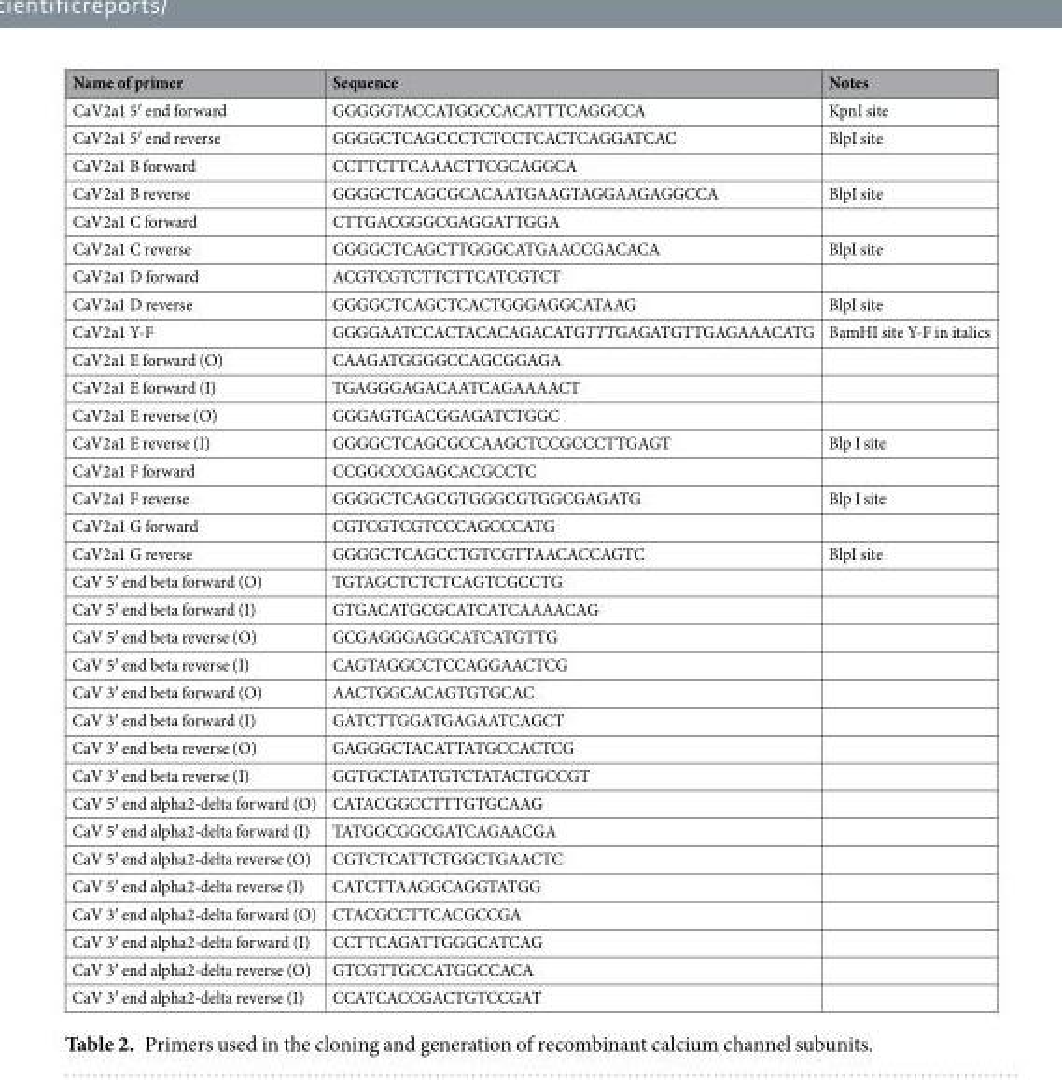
<table><thead><tr><td>Name of primer</td><td>Sequence</td><td>Notes</td></tr></thead><tbody><tr><td>CaV2a1 5′ end forward</td><td>GGGGGTACCATGGCCACATTTCAGGCCA</td><td>KpnI site</td></tr><tr><td>CaV2a1 5′ end reverse</td><td>GGGGCTCAGCCCTCTCCTCACTCAGGATCAC</td><td>BlpI site</td></tr><tr><td>CaV2a1 B forward</td><td>CCTTCTTCAAACTTCGCAGGCA</td><td></td></tr><tr><td>CaV2a1 B reverse</td><td>GGGGCTCAGCGCACAATGAAGTAGGAAGAGGCCA</td><td>BlpI site</td></tr><tr><td>CaV2a1 C forward</td><td>CTTGACGGGCGAGGATTGGA</td><td></td></tr><tr><td>CaV2a1 C reverse</td><td>GGGGCTCAGCTTGGGCATGAACCGACACA</td><td>BlpI site</td></tr><tr><td>CaV2a1 D forward</td><td>ACGTCGTCTTCTTCATCGTCT</td><td></td></tr><tr><td>CaV2a1 D reverse</td><td>GGGGCTCAGCTCACTGGGAGGCATAAG</td><td>BlpI site</td></tr><tr><td>CaV2a1 Y-F</td><td>GGGGAATCCACTACACAGACATGTTTGAGATGTTGAGAAACATG</td><td>BamHI site Y-F in italics</td></tr><tr><td>CaV2a1 E forward (O)</td><td>CAAGATGGGGCCAGCGGAGA</td><td></td></tr><tr><td>CaV2a1 E forward (I)</td><td>TGAGGGAGACAATCAGAAAACT</td><td></td></tr><tr><td>CaV2a1 E reverse (O)</td><td>GGGAGTGACGGAGATCTGGC</td><td></td></tr><tr><td>CaV2a1 E reverse (I)</td><td>GGGGCTCAGCGCCAAGCTCCGCCCTTGAGT</td><td>Blp I site</td></tr><tr><td>CaV2a1 F forward</td><td>CCGGCCCGAGCACGCCTC</td><td></td></tr><tr><td>CaV2a1 F reverse</td><td>GGGGCTCAGCGTGGGCGTGGCGAGATG</td><td>Blp I site</td></tr><tr><td>CaV2a1 G forward</td><td>CGTCGTCGTCCCAGCCCATG</td><td></td></tr><tr><td>CaV2a1 G reverse</td><td>GGGGCTCAGCCTGTCGTTAACACCAGTC</td><td>BlpI site</td></tr><tr><td>CaV 5′ end beta forward (O)</td><td>TGTAGCTCTCTCAGTCGCCTG</td><td></td></tr><tr><td>CaV 5′ end beta forward (I)</td><td>GTGACATGCGCATCATCAAAACAG</td><td></td></tr><tr><td>CaV 5′ end beta reverse (O)</td><td>GCGAGGGAGGCATCATGTTG</td><td></td></tr><tr><td>CaV 5′ end beta reverse (I)</td><td>CAGTAGGCCTCCAGGAACTCG</td><td></td></tr><tr><td>CaV 3′ end beta forward (O)</td><td>AACTGGCACAGTGTGCAC</td><td></td></tr><tr><td>CaV 3′ end beta forward (I)</td><td>GATCTTGGATGAGAATCAGCT</td><td></td></tr><tr><td>CaV 3′ end beta reverse (O)</td><td>GAGGGCTACATTATGCCACTCG</td><td></td></tr><tr><td>CaV 3′ end beta reverse (I)</td><td>GGTGCTATATGTCTATACTGCCGT</td><td></td></tr><tr><td>CaV 5′ end alpha2-delta forward (O)</td><td>CATACGGCCTTTGTGCAAG</td><td></td></tr><tr><td>CaV 5′ end alpha2-delta forward (I)</td><td>TATGGCGGCGATCAGAACGA</td><td></td></tr><tr><td>CaV 5′ end alpha2-delta reverse (O)</td><td>CGTCTCATTCTGGCTGAACTC</td><td></td></tr><tr><td>CaV 5′ end alpha2-delta reverse (I)</td><td>CATCTTAAGGCAGGTATGG</td><td></td></tr><tr><td>CaV 3′ end alpha2-delta forward (O)</td><td>CTACGCCTTCACGCCGA</td><td></td></tr><tr><td>CaV 3′ end alpha2-delta forward (I)</td><td>CCTTCAGATTGGGCATCAG</td><td></td></tr><tr><td>CaV 3′ end alpha2-delta reverse (O)</td><td>GTCGTTGCCATGGCCACA</td><td></td></tr><tr><td>CaV 3′ end alpha2-delta reverse (I)</td><td>CCATCACCGACTGTCCGAT</td><td></td></tr></tbody></table>